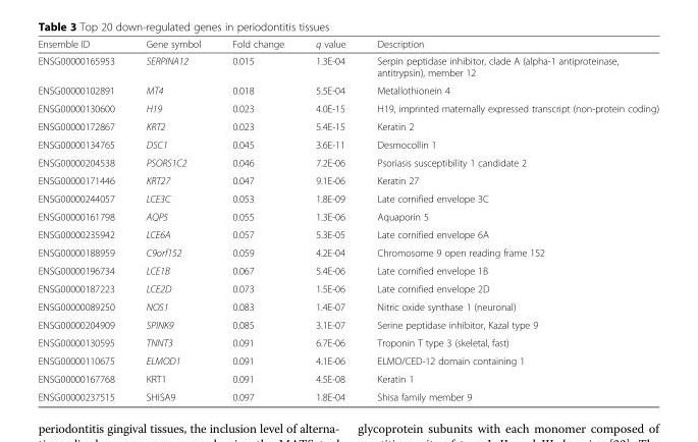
<table><thead><tr><td>Ensemble ID</td><td>Gene symbol</td><td>Fold change</td><td>q value</td><td>Description</td></tr></thead><tbody><tr><td>ENSG00000165953</td><td>SERPINA12</td><td>0.015</td><td>1.3E-04</td><td>Serpin peptidase inhibitor, clade A (alpha-1 antiproteinase, antitrypsin), member 12</td></tr><tr><td>ENSG00000102891</td><td>MT4</td><td>0.018</td><td>5.5E-04</td><td>Metallothionein 4</td></tr><tr><td>ENSG00000130600</td><td>H19</td><td>0.023</td><td>4.0E-15</td><td>H19, imprinted maternally expressed transcript (non-protein coding)</td></tr><tr><td>ENSG00000172867</td><td>KRT2</td><td>0.023</td><td>5.4E-15</td><td>Keratin 2</td></tr><tr><td>ENSG00000134765</td><td>DSC1</td><td>0.045</td><td>3.6E-11</td><td>Desmocollin 1</td></tr><tr><td>ENSG00000204538</td><td>PSORS1C2</td><td>0.046</td><td>7.2E-06</td><td>Psoriasis susceptibility 1 candidate 2</td></tr><tr><td>ENSG00000171446</td><td>KRT27</td><td>0.047</td><td>9.1E-06</td><td>Keratin 27</td></tr><tr><td>ENSG00000244057</td><td>LCE3C</td><td>0.053</td><td>1.8E-09</td><td>Late cornified envelope 3C</td></tr><tr><td>ENSG00000161798</td><td>AQP5</td><td>0.055</td><td>1.3E-06</td><td>Aquaporin 5</td></tr><tr><td>ENSG00000235942</td><td>LCE6A</td><td>0.057</td><td>5.3E-05</td><td>Late cornified envelope 6A</td></tr><tr><td>ENSG00000188959</td><td>C9orf152</td><td>0.059</td><td>4.2E-04</td><td>Chromosome 9 open reading frame 152</td></tr><tr><td>ENSG00000196734</td><td>LCE1B</td><td>0.067</td><td>5.4E-06</td><td>Late cornified envelope 1B</td></tr><tr><td>ENSG00000187223</td><td>LCE2D</td><td>0.073</td><td>1.5E-06</td><td>Late cornified envelope 2D</td></tr><tr><td>ENSG00000089250</td><td>NOS1</td><td>0.083</td><td>1.4E-07</td><td>Nitric oxide synthase 1 (neuronal)</td></tr><tr><td>ENSG00000204909</td><td>SPINK9</td><td>0.085</td><td>3.1E-07</td><td>Serine peptidase inhibitor, Kazal type 9</td></tr><tr><td>ENSG00000130595</td><td>TNNT3</td><td>0.091</td><td>6.7E-06</td><td>Troponin T type 3 (skeletal, fast)</td></tr><tr><td>ENSG00000110675</td><td>ELMOD1</td><td>0.091</td><td>4.1E-06</td><td>ELMO/CED-12 domain containing 1</td></tr><tr><td>ENSG00000167768</td><td>KRT1</td><td>0.091</td><td>4.5E-08</td><td>Keratin 1</td></tr><tr><td>ENSG00000237515</td><td>SHISA9</td><td>0.097</td><td>1.8E-04</td><td>Shisa family member 9</td></tr></tbody></table>